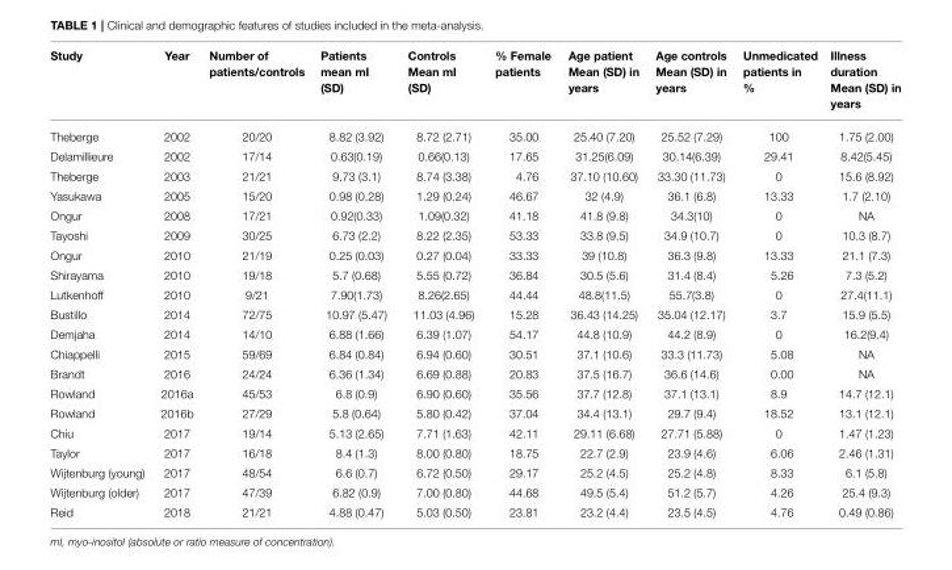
<table><thead><tr><td>Study</td><td>Year</td><td>Number of patients/controls</td><td>Patients mean mI (SD)</td><td>Controls Mean mI (SD)</td><td>% Female patients</td><td>Age patient Mean (SD) in years</td><td>Age controls Mean (SD) in years</td><td>Unmedicated patients in %</td><td>Illness duration Mean (SD) in years</td></tr></thead><tbody><tr><td>Theberge</td><td>2002</td><td>20/20</td><td>8.82 (3.92)</td><td>8.72 (2.71)</td><td>35.00</td><td>25.40 (7.20)</td><td>25.52 (7.29)</td><td>100</td><td>1.75 (2.00)</td></tr><tr><td>Delamillieure</td><td>2002</td><td>17/14</td><td>0.63(0.19)</td><td>0.66(0.13)</td><td>17.65</td><td>31.25(6.09)</td><td>30.14(6.39)</td><td>29.41</td><td>8.42(5.45)</td></tr><tr><td>Theberge</td><td>2003</td><td>21/21</td><td>9.73 (3.1)</td><td>8.74 (3.38)</td><td>4.76</td><td>37.10 (10.60)</td><td>33.30 (11.73)</td><td>0</td><td>15.6 (8.92)</td></tr><tr><td>Yasukawa</td><td>2005</td><td>15/20</td><td>0.98 (0.28)</td><td>1.29 (0.24)</td><td>46.67</td><td>32 (4.9)</td><td>36.1 (6.8)</td><td>13.33</td><td>1.7 (2.10)</td></tr><tr><td>Ongur</td><td>2008</td><td>17/21</td><td>0.92(0.33)</td><td>1.09(0.32)</td><td>41.18</td><td>41.8 (9.8)</td><td>34.3(10)</td><td>0</td><td>NA</td></tr><tr><td>Tayoshi</td><td>2009</td><td>30/25</td><td>6.73 (2.2)</td><td>8.22 (2.35)</td><td>53.33</td><td>33.8 (9.5)</td><td>34.9 (10.7)</td><td>0</td><td>10.3 (8.7)</td></tr><tr><td>Ongur</td><td>2010</td><td>21/19</td><td>0.25 (0.03)</td><td>0.27 (0.04)</td><td>33.33</td><td>39 (10.8)</td><td>36.3 (9.8)</td><td>13.33</td><td>21.1 (7.3)</td></tr><tr><td>Shirayama</td><td>2010</td><td>19/18</td><td>5.7 (0.68)</td><td>5.55 (0.72)</td><td>36.84</td><td>30.5 (5.6)</td><td>31.4 (8.4)</td><td>5.26</td><td>7.3 (5.2)</td></tr><tr><td>Lutkenhoff</td><td>2010</td><td>9/21</td><td>7.90(1.73)</td><td>8.26(2.65)</td><td>44.44</td><td>48.8(11.5)</td><td>55.7(3.8)</td><td>0</td><td>27.4(11.1)</td></tr><tr><td>Bustillo</td><td>2014</td><td>72/75</td><td>10.97 (5.47)</td><td>11.03 (4.96)</td><td>15.28</td><td>36.43 (14.25)</td><td>35.04 (12.17)</td><td>3.7</td><td>15.9 (5.5)</td></tr><tr><td>Demjaha</td><td>2014</td><td>14/10</td><td>6.88 (1.66)</td><td>6.39 (1.07)</td><td>54.17</td><td>44.8 (10.9)</td><td>44.2 (8.9)</td><td>0</td><td>16.2(9.4)</td></tr><tr><td>Chiappelli</td><td>2015</td><td>59/69</td><td>6.84 (0.84)</td><td>6.94 (0.60)</td><td>30.51</td><td>37.1 (10.6)</td><td>33.3 (11.73)</td><td>5.08</td><td>NA</td></tr><tr><td>Brandt</td><td>2016</td><td>24/24</td><td>6.36 (1.34)</td><td>6.69 (0.88)</td><td>20.83</td><td>37.5 (16.7)</td><td>36.6 (14.6)</td><td>0.00</td><td>NA</td></tr><tr><td>Rowland</td><td>2016a</td><td>45/53</td><td>6.8 (0.9)</td><td>6.90 (0.60)</td><td>35.56</td><td>37.7 (12.8)</td><td>37.1 (13.1)</td><td>8.9</td><td>14.7 (12.1)</td></tr><tr><td>Rowland</td><td>2016b</td><td>27/29</td><td>5.8 (0.64)</td><td>5.80 (0.42)</td><td>37.04</td><td>34.4 (13.1)</td><td>29.7 (9.4)</td><td>18.52</td><td>13.1 (12.1)</td></tr><tr><td>Chiu</td><td>2017</td><td>19/14</td><td>5.13 (2.65)</td><td>7.71 (1.63)</td><td>42.11</td><td>29.11 (6.68)</td><td>27.71 (5.88)</td><td>0</td><td>1.47 (1.23)</td></tr><tr><td>Taylor</td><td>2017</td><td>16/18</td><td>8.4 (1.3)</td><td>8.00 (0.80)</td><td>18.75</td><td>22.7 (2.9)</td><td>23.9 (4.6)</td><td>6.06</td><td>2.46 (1.31)</td></tr><tr><td>Wijtenburg (young)</td><td>2017</td><td>48/54</td><td>6.6 (0.7)</td><td>6.72 (0.50)</td><td>29.17</td><td>25.2 (4.5)</td><td>25.2 (4.8)</td><td>8.33</td><td>6.1 (5.8)</td></tr><tr><td>Wijtenburg (older)</td><td>2017</td><td>47/39</td><td>6.82 (0.9)</td><td>7.00 (0.80)</td><td>44.68</td><td>49.5 (5.4)</td><td>51.2 (5.7)</td><td>4.26</td><td>25.4 (9.3)</td></tr><tr><td>Reid</td><td>2018</td><td>21/21</td><td>4.88 (0.47)</td><td>5.03 (0.50)</td><td>23.81</td><td>23.2 (4.4)</td><td>23.5 (4.5)</td><td>4.76</td><td>0.49 (0.86)</td></tr></tbody></table>